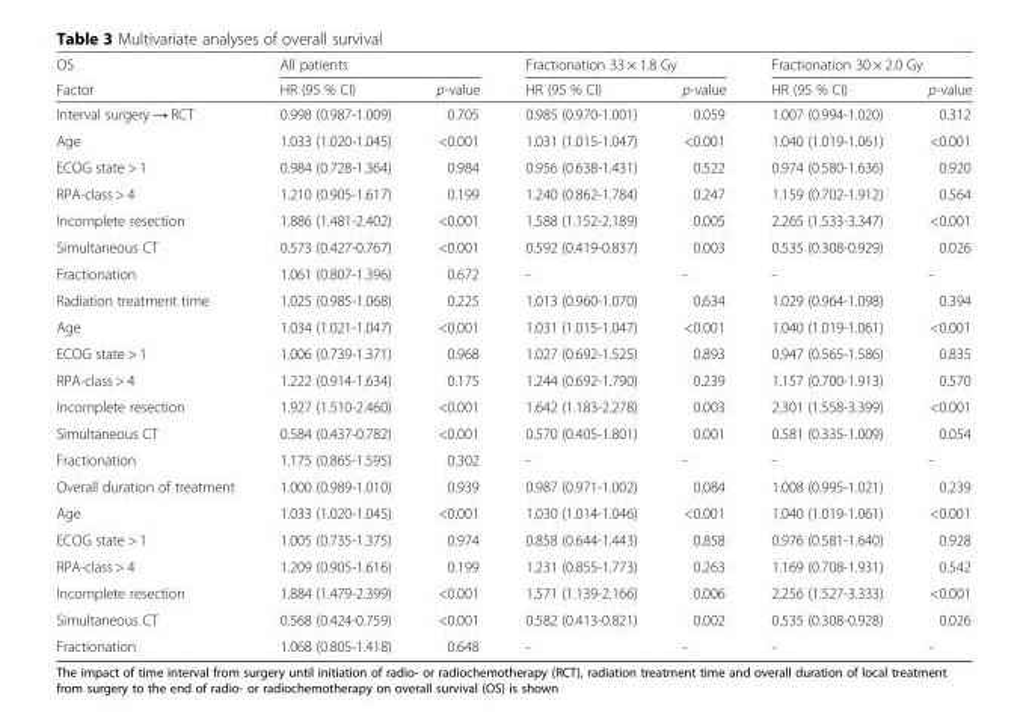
<table><thead><tr><td rowspan="2">OS Factor</td><td colspan="2">All patients</td><td colspan="2">Fractionation 33 × 1.8 Gy</td><td colspan="2">Fractionation 30 × 2.0 Gy</td></tr><tr><td>HR (95 % CI)</td><td>p-value</td><td>HR (95 % CI)</td><td>p-value</td><td>HR (95 % CI)</td><td>p-value</td></tr></thead><tbody><tr><td>Interval surgery → RCT</td><td>0.998 (0.987-1.009)</td><td>0.705</td><td>0.985 (0.970-1.001)</td><td>0.059</td><td>1.007 (0.994-1.020)</td><td>0.312</td></tr><tr><td>Age</td><td>1.033 (1.020-1.045)</td><td>&lt;0.001</td><td>1.031 (1.015-1.047)</td><td>&lt;0.001</td><td>1.040 (1.019-1.061)</td><td>&lt;0.001</td></tr><tr><td>ECOG state &gt; 1</td><td>0.984 (0.728-1.364)</td><td>0.984</td><td>0.956 (0.638-1.431)</td><td>0.522</td><td>0.974 (0.580-1.636)</td><td>0.920</td></tr><tr><td>RPA-class &gt; 4</td><td>1.210 (0.905-1.617)</td><td>0.199</td><td>1.240 (0.862-1.784)</td><td>0.247</td><td>1.159 (0.702-1.912)</td><td>0.564</td></tr><tr><td>Incomplete resection</td><td>1.886 (1.481-2.402)</td><td>&lt;0.001</td><td>1.588 (1.152-2.189)</td><td>0.005</td><td>2.265 (1.533-3.347)</td><td>&lt;0.001</td></tr><tr><td>Simultaneous CT</td><td>0.573 (0.427-0.767)</td><td>&lt;0.001</td><td>0.592 (0.419-0.837)</td><td>0.003</td><td>0.535 (0.308-0.929)</td><td>0.026</td></tr><tr><td>Fractionation</td><td>1.061 (0.807-1.396)</td><td>0.672</td><td>-</td><td>-</td><td>-</td><td>-</td></tr><tr><td>Radiation treatment time</td><td>1.025 (0.985-1.068)</td><td>0.225</td><td>1.013 (0.960-1.070)</td><td>0.634</td><td>1.029 (0.964-1.098)</td><td>0.394</td></tr><tr><td>Age</td><td>1.034 (1.021-1.047)</td><td>&lt;0.001</td><td>1.031 (1.015-1.047)</td><td>&lt;0.001</td><td>1.040 (1.019-1.061)</td><td>&lt;0.001</td></tr><tr><td>ECOG state &gt; 1</td><td>1.006 (0.739-1.371)</td><td>0.968</td><td>1.027 (0.692-1.525)</td><td>0.893</td><td>0.947 (0.565-1.586)</td><td>0.835</td></tr><tr><td>RPA-class &gt; 4</td><td>1.222 (0.914-1.634)</td><td>0.175</td><td>1.244 (0.692-1.790)</td><td>0.239</td><td>1.157 (0.700-1.913)</td><td>0.570</td></tr><tr><td>Incomplete resection</td><td>1.927 (1.510-2.460)</td><td>&lt;0.001</td><td>1.642 (1.183-2.278)</td><td>0.003</td><td>2.301 (1.558-3.399)</td><td>&lt;0.001</td></tr><tr><td>Simultaneous CT</td><td>0.584 (0.437-0.782)</td><td>&lt;0.001</td><td>0.570 (0.405-1.801)</td><td>0.001</td><td>0.581 (0.335-1.009)</td><td>0.054</td></tr><tr><td>Fractionation</td><td>1.175 (0.865-1.595)</td><td>0.302</td><td>-</td><td>-</td><td>-</td><td>-</td></tr><tr><td>Overall duration of treatment</td><td>1.000 (0.989-1.010)</td><td>0.939</td><td>0.987 (0.971-1.002)</td><td>0.084</td><td>1.008 (0.995-1.021)</td><td>0.239</td></tr><tr><td>Age</td><td>1.033 (1.020-1.045)</td><td>&lt;0.001</td><td>1.030 (1.014-1.046)</td><td>&lt;0.001</td><td>1.040 (1.019-1.061)</td><td>&lt;0.001</td></tr><tr><td>ECOG state &gt; 1</td><td>1.005 (0.735-1.375)</td><td>0.974</td><td>0.858 (0.644-1.443)</td><td>0.858</td><td>0.976 (0.581-1.640)</td><td>0.928</td></tr><tr><td>RPA-class &gt; 4</td><td>1.209 (0.905-1.616)</td><td>0.199</td><td>1.231 (0.855-1.773)</td><td>0.263</td><td>1.169 (0.708-1.931)</td><td>0.542</td></tr><tr><td>Incomplete resection</td><td>1.884 (1.479-2.399)</td><td>&lt;0.001</td><td>1.571 (1.139-2.166)</td><td>0.006</td><td>2.256 (1.527-3.333)</td><td>&lt;0.001</td></tr><tr><td>Simultaneous CT</td><td>0.568 (0.424-0.759)</td><td>&lt;0.001</td><td>0.582 (0.413-0.821)</td><td>0.002</td><td>0.535 (0.308-0.928)</td><td>0.026</td></tr><tr><td>Fractionation</td><td>1.068 (0.805-1.418)</td><td>0.648</td><td>-</td><td>-</td><td>-</td><td>-</td></tr></tbody></table>